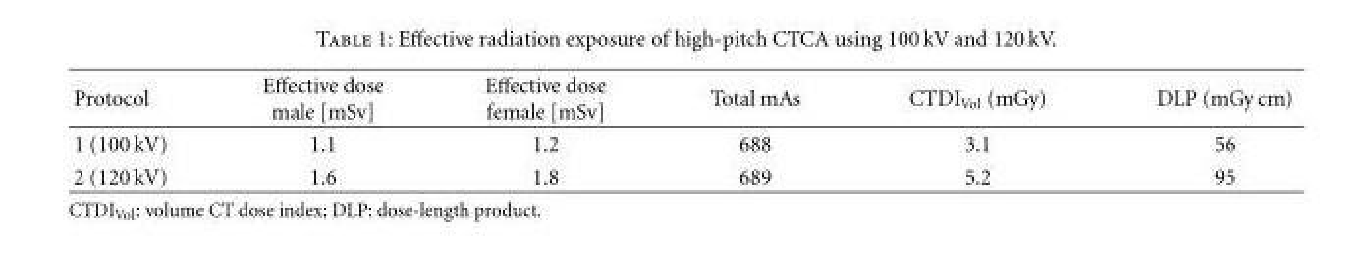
<table><thead><tr><td>Protocol</td><td>Effective dose male [mSv]</td><td>Effective dose female [mSv]</td><td>Total mAs</td><td>CTDI<sub>Vol</sub> (mGy)</td><td>DLP (mGy cm)</td></tr></thead><tbody><tr><td>1 (100 kV)</td><td>1.1</td><td>1.2</td><td>688</td><td>3.1</td><td>56</td></tr><tr><td>2 (120 kV)</td><td>1.6</td><td>1.8</td><td>689</td><td>5.2</td><td>95</td></tr></tbody></table>